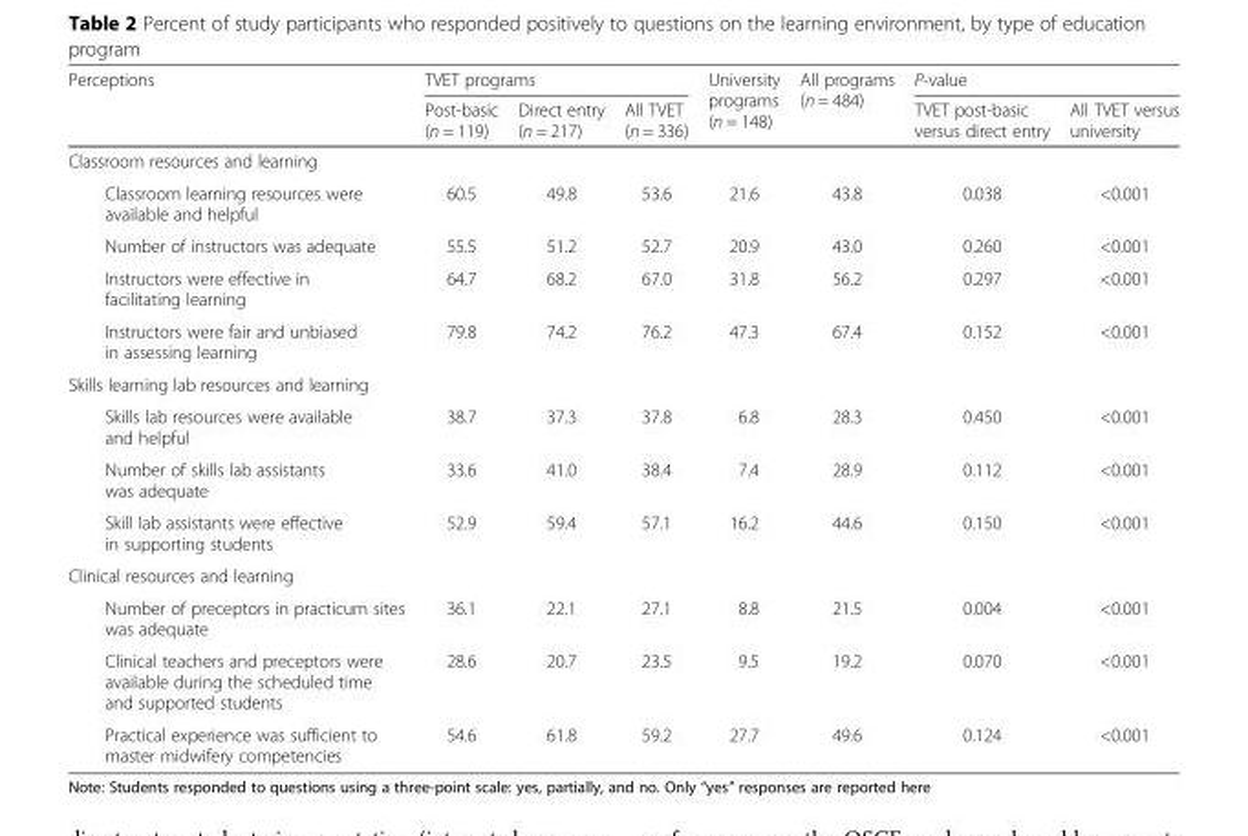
<table><thead><tr><td rowspan="2">Perceptions</td><td colspan="3">TVET programs</td><td rowspan="2">University programs (n = 148)</td><td rowspan="2">All programs (n = 484)</td><td colspan="2">P-value</td></tr><tr><td>Post-basic (n = 119)</td><td>Direct entry (n = 217)</td><td>All TVET (n = 336)</td><td>TVET post-basic versus direct entry</td><td>All TVET versus university</td></tr></thead><tbody><tr><td colspan="8">Classroom resources and learning</td></tr><tr><td>Classroom learning resources were available and helpful</td><td>60.5</td><td>49.8</td><td>53.6</td><td>21.6</td><td>43.8</td><td>0.038</td><td>&lt;0.001</td></tr><tr><td>Number of instructors was adequate</td><td>55.5</td><td>51.2</td><td>52.7</td><td>20.9</td><td>43.0</td><td>0.260</td><td>&lt;0.001</td></tr><tr><td>Instructors were effective in facilitating learning</td><td>64.7</td><td>68.2</td><td>67.0</td><td>31.8</td><td>56.2</td><td>0.297</td><td>&lt;0.001</td></tr><tr><td>Instructors were fair and unbiased in assessing learning</td><td>79.8</td><td>74.2</td><td>76.2</td><td>47.3</td><td>67.4</td><td>0.152</td><td>&lt;0.001</td></tr><tr><td colspan="8">Skills learning lab resources and learning</td></tr><tr><td>Skills lab resources were available and helpful</td><td>38.7</td><td>37.3</td><td>37.8</td><td>6.8</td><td>28.3</td><td>0.450</td><td>&lt;0.001</td></tr><tr><td>Number of skills lab assistants was adequate</td><td>33.6</td><td>41.0</td><td>38.4</td><td>7.4</td><td>28.9</td><td>0.112</td><td>&lt;0.001</td></tr><tr><td>Skill lab assistants were effective in supporting students</td><td>52.9</td><td>59.4</td><td>57.1</td><td>16.2</td><td>44.6</td><td>0.150</td><td>&lt;0.001</td></tr><tr><td colspan="8">Clinical resources and learning</td></tr><tr><td>Number of preceptors in practicum sites was adequate</td><td>36.1</td><td>22.1</td><td>27.1</td><td>8.8</td><td>21.5</td><td>0.004</td><td>&lt;0.001</td></tr><tr><td>Clinical teachers and preceptors were available during the scheduled time and supported students</td><td>28.6</td><td>20.7</td><td>23.5</td><td>9.5</td><td>19.2</td><td>0.070</td><td>&lt;0.001</td></tr><tr><td>Practical experience was sufficient to master midwifery competencies</td><td>54.6</td><td>61.8</td><td>59.2</td><td>27.7</td><td>49.6</td><td>0.124</td><td>&lt;0.001</td></tr></tbody></table>